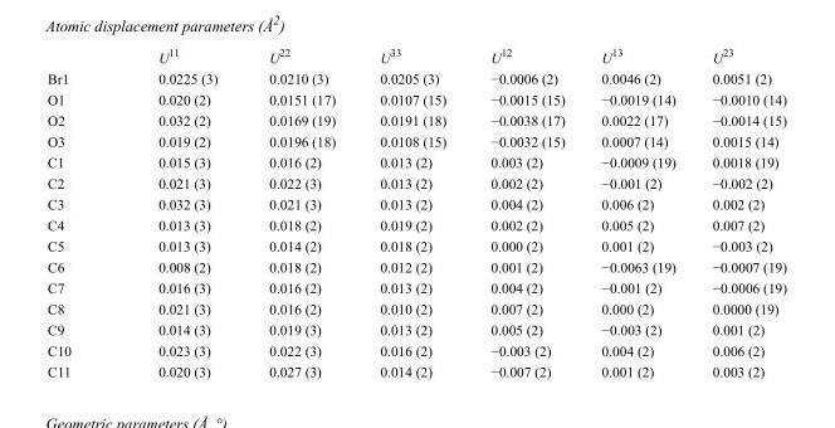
<table><thead><tr><td></td><td>U<sup>11</sup></td><td>U<sup>22</sup></td><td>U<sup>33</sup></td><td>U<sup>12</sup></td><td>U<sup>13</sup></td><td>U<sup>23</sup></td></tr></thead><tbody><tr><td>Br1</td><td>0.0225 (3)</td><td>0.0210 (3)</td><td>0.0205 (3)</td><td>−0.0006 (2)</td><td>0.0046 (2)</td><td>0.0051 (2)</td></tr><tr><td>O1</td><td>0.020 (2)</td><td>0.0151 (17)</td><td>0.0107 (15)</td><td>−0.0015 (15)</td><td>−0.0019 (14)</td><td>−0.0010 (14)</td></tr><tr><td>O2</td><td>0.032 (2)</td><td>0.0169 (19)</td><td>0.0191 (18)</td><td>−0.0038 (17)</td><td>0.0022 (17)</td><td>−0.0014 (15)</td></tr><tr><td>O3</td><td>0.019 (2)</td><td>0.0196 (18)</td><td>0.0108 (15)</td><td>−0.0032 (15)</td><td>0.0007 (14)</td><td>0.0015 (14)</td></tr><tr><td>C1</td><td>0.015 (3)</td><td>0.016 (2)</td><td>0.013 (2)</td><td>0.003 (2)</td><td>−0.0009 (19)</td><td>0.0018 (19)</td></tr><tr><td>C2</td><td>0.021 (3)</td><td>0.022 (3)</td><td>0.013 (2)</td><td>0.002 (2)</td><td>−0.001 (2)</td><td>−0.002 (2)</td></tr><tr><td>C3</td><td>0.032 (3)</td><td>0.021 (3)</td><td>0.013 (2)</td><td>0.004 (2)</td><td>0.006 (2)</td><td>0.002 (2)</td></tr><tr><td>C4</td><td>0.013 (3)</td><td>0.018 (2)</td><td>0.019 (2)</td><td>0.002 (2)</td><td>0.005 (2)</td><td>0.007 (2)</td></tr><tr><td>C5</td><td>0.013 (3)</td><td>0.014 (2)</td><td>0.018 (2)</td><td>0.000 (2)</td><td>0.001 (2)</td><td>−0.003 (2)</td></tr><tr><td>C6</td><td>0.008 (2)</td><td>0.018 (2)</td><td>0.012 (2)</td><td>0.001 (2)</td><td>−0.0063 (19)</td><td>−0.0007 (19)</td></tr><tr><td>C7</td><td>0.016 (3)</td><td>0.016 (2)</td><td>0.013 (2)</td><td>0.004 (2)</td><td>−0.001 (2)</td><td>−0.0006 (19)</td></tr><tr><td>C8</td><td>0.021 (3)</td><td>0.016 (2)</td><td>0.010 (2)</td><td>0.007 (2)</td><td>0.000 (2)</td><td>0.0000 (19)</td></tr><tr><td>C9</td><td>0.014 (3)</td><td>0.019 (3)</td><td>0.013 (2)</td><td>0.005 (2)</td><td>−0.003 (2)</td><td>0.001 (2)</td></tr><tr><td>C10</td><td>0.023 (3)</td><td>0.022 (3)</td><td>0.016 (2)</td><td>−0.003 (2)</td><td>0.004 (2)</td><td>0.006 (2)</td></tr><tr><td>C11</td><td>0.020 (3)</td><td>0.027 (3)</td><td>0.014 (2)</td><td>−0.007 (2)</td><td>0.001 (2)</td><td>0.003 (2)</td></tr></tbody></table>